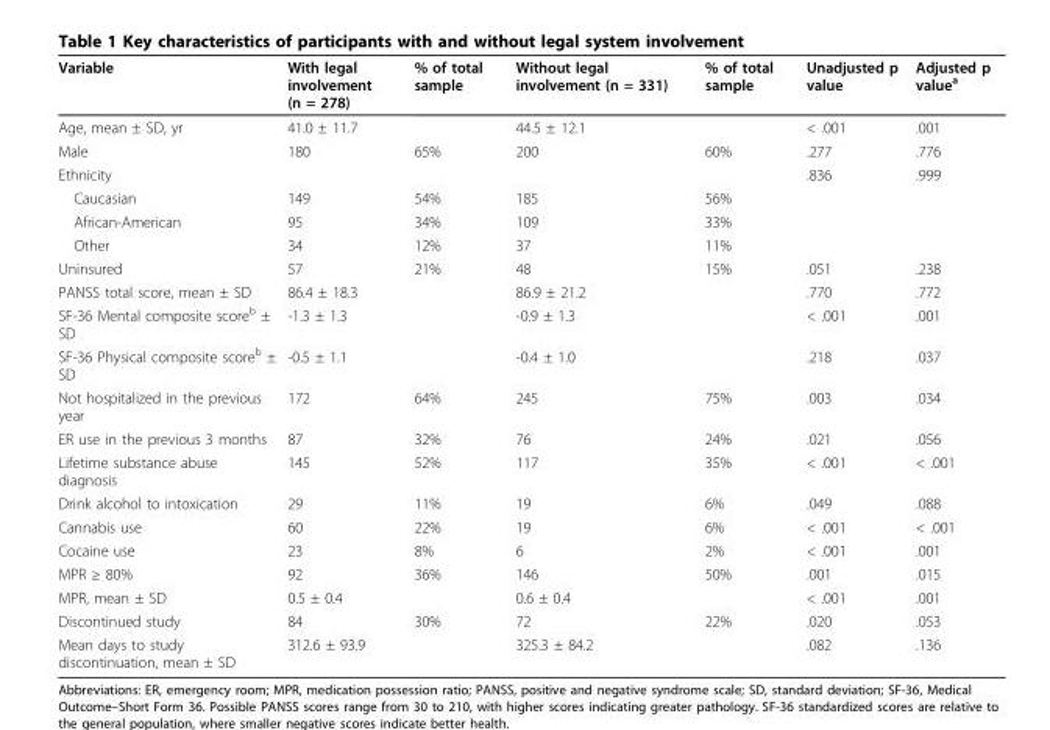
<table><thead><tr><td>Variable</td><td>With legal involvement (n = 278)</td><td>% of total sample</td><td>Without legal involvement (n = 331)</td><td>% of total sample</td><td>Unadjusted p value</td><td>Adjusted p value<sup>a</sup></td></tr></thead><tbody><tr><td>Age, mean ± SD, yr</td><td>41.0 ± 11.7</td><td></td><td>44.5 ± 12.1</td><td></td><td>&lt; .001</td><td>.001</td></tr><tr><td>Male</td><td>180</td><td>65%</td><td>200</td><td>60%</td><td>.277</td><td>.776</td></tr><tr><td>Ethnicity</td><td></td><td></td><td></td><td></td><td>.836</td><td>.999</td></tr><tr><td>Caucasian</td><td>149</td><td>54%</td><td>185</td><td>56%</td><td></td><td></td></tr><tr><td>African-American</td><td>95</td><td>34%</td><td>109</td><td>33%</td><td></td><td></td></tr><tr><td>Other</td><td>34</td><td>12%</td><td>37</td><td>11%</td><td></td><td></td></tr><tr><td>Uninsured</td><td>57</td><td>21%</td><td>48</td><td>15%</td><td>.051</td><td>.238</td></tr><tr><td>PANSS total score, mean ± SD</td><td>86.4 ± 18.3</td><td></td><td>86.9 ± 21.2</td><td></td><td>.770</td><td>.772</td></tr><tr><td>SF-36 Mental composite score<sup>b</sup> ± SD</td><td>-1.3 ± 1.3</td><td></td><td>-0.9 ± 1.3</td><td></td><td>&lt; .001</td><td>.001</td></tr><tr><td>SF-36 Physical composite score<sup>b</sup> ± SD</td><td>-0.5 ± 1.1</td><td></td><td>-0.4 ± 1.0</td><td></td><td>.218</td><td>.037</td></tr><tr><td>Not hospitalized in the previous year</td><td>172</td><td>64%</td><td>245</td><td>75%</td><td>.003</td><td>.034</td></tr><tr><td>ER use in the previous 3 months</td><td>87</td><td>32%</td><td>76</td><td>24%</td><td>.021</td><td>.056</td></tr><tr><td>Lifetime substance abuse diagnosis</td><td>145</td><td>52%</td><td>117</td><td>35%</td><td>&lt; .001</td><td>&lt; .001</td></tr><tr><td>Drink alcohol to intoxication</td><td>29</td><td>11%</td><td>19</td><td>6%</td><td>.049</td><td>.088</td></tr><tr><td>Cannabis use</td><td>60</td><td>22%</td><td>19</td><td>6%</td><td>&lt; .001</td><td>&lt; .001</td></tr><tr><td>Cocaine use</td><td>23</td><td>8%</td><td>6</td><td>2%</td><td>&lt; .001</td><td>.001</td></tr><tr><td>MPR ≥ 80%</td><td>92</td><td>36%</td><td>146</td><td>50%</td><td>.001</td><td>.015</td></tr><tr><td>MPR, mean ± SD</td><td>0.5 ± 0.4</td><td></td><td>0.6 ± 0.4</td><td></td><td>&lt; .001</td><td>.001</td></tr><tr><td>Discontinued study</td><td>84</td><td>30%</td><td>72</td><td>22%</td><td>.020</td><td>.053</td></tr><tr><td>Mean days to study discontinuation, mean ± SD</td><td>312.6 ± 93.9</td><td></td><td>325.3 ± 84.2</td><td></td><td>.082</td><td>.136</td></tr></tbody></table>